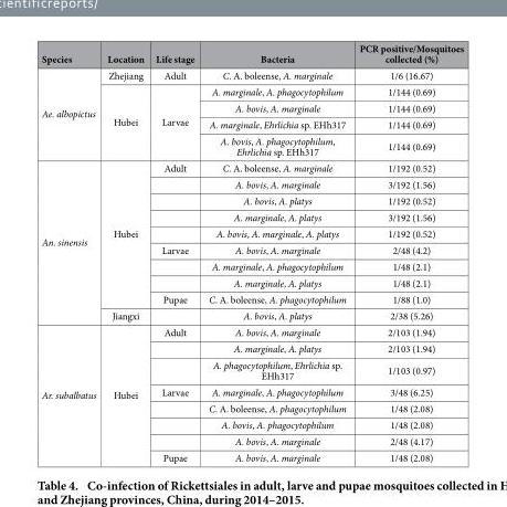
<table><thead><tr><td>Species</td><td>Location</td><td>Life stage</td><td>Bacteria</td><td>PCR positive/Mosquitoes collected (%)</td></tr></thead><tbody><tr><td rowspan="5">Ae. albopictus</td><td>Zhejiang</td><td>Adult</td><td>C. A. boleense, A. marginale</td><td>1/6 (16.67)</td></tr><tr><td rowspan="4">Hubei</td><td rowspan="4">Larvae</td><td>A. marginale, A. phagocytophilum</td><td>1/144 (0.69)</td></tr><tr><td>A. bovis, A. marginale</td><td>1/144 (0.69)</td></tr><tr><td>A. marginale, Ehrlichia sp. EHh317</td><td>1/144 (0.69)</td></tr><tr><td>A. bovis, A. phagocytophilum, Ehrlichia sp. EHh317</td><td>1/144 (0.69)</td></tr><tr><td rowspan="10">An. sinensis</td><td rowspan="9">Hubei</td><td>Adult</td><td>C. A. boleense, A. marginale</td><td>1/192 (0.52)</td></tr><tr><td></td><td>A. bovis, A. marginale</td><td>3/192 (1.56)</td></tr><tr><td></td><td>A. bovis, A. platys</td><td>1/192 (0.52)</td></tr><tr><td></td><td>A. marginale, A. platys</td><td>3/192 (1.56)</td></tr><tr><td></td><td>A. bovis, A. marginale, A. platys</td><td>1/192 (0.52)</td></tr><tr><td>Larvae</td><td>A. bovis, A. marginale</td><td>2/48 (4.2)</td></tr><tr><td></td><td>A. marginale, A. phagocytophilum</td><td>1/48 (2.1)</td></tr><tr><td></td><td>A. marginale, A. platys</td><td>1/48 (2.1)</td></tr><tr><td>Pupae</td><td>C. A. boleense, A. phagocytophilum</td><td>1/88 (1.0)</td></tr><tr><td>Jiangxi</td><td></td><td>A. bovis, A. platys</td><td>2/38 (5.26)</td></tr><tr><td rowspan="8">Ar. subalbatus</td><td rowspan="8">Hubei</td><td>Adult</td><td>A. bovis, A. marginale</td><td>2/103 (1.94)</td></tr><tr><td></td><td>A. marginale, A. platys</td><td>2/103 (1.94)</td></tr><tr><td></td><td>A. phagocytophilum, Ehrlichia sp. EHh317</td><td>1/103 (0.97)</td></tr><tr><td>Larvae</td><td>A. marginale, A. phagocytophilum</td><td>3/48 (6.25)</td></tr><tr><td></td><td>C. A. boleense, A. phagocytophilum</td><td>1/48 (2.08)</td></tr><tr><td></td><td>A. bovis, A. phagocytophilum</td><td>1/48 (2.08)</td></tr><tr><td></td><td>A. bovis, A. marginale</td><td>2/48 (4.17)</td></tr><tr><td>Pupae</td><td>A. bovis, A. marginale</td><td>1/48 (2.08)</td></tr></tbody></table>